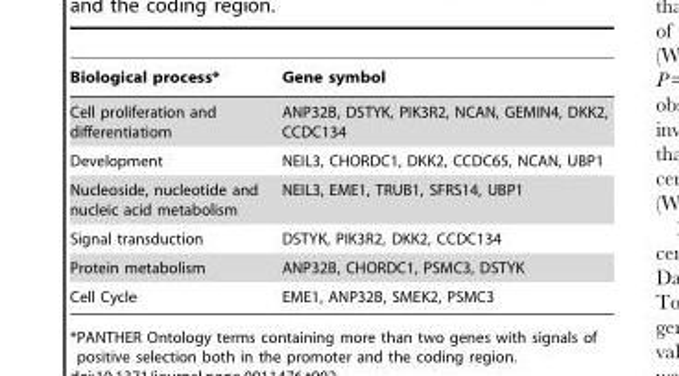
<table><thead><tr><td>Biological process*</td><td>Gene symbol</td></tr></thead><tbody><tr><td>Cell proliferation and differentiatiom</td><td>ANP32B, DSTYK, PIK3R2, NCAN, GEMIN4, DKK2, CCDC134</td></tr><tr><td>Development</td><td>NEIL3, CHORDC1, DKK2, CCDC65, NCAN, UBP1</td></tr><tr><td>Nucleoside, nucleotide and nucleic acid metabolism</td><td>NEIL3, EME1, TRUB1, SFRS14, UBP1</td></tr><tr><td>Signal transduction</td><td>DSTYK, PIK3R2, DKK2, CCDC134</td></tr><tr><td>Protein metabolism</td><td>ANP32B, CHORDC1, PSMC3, DSTYK</td></tr><tr><td>Cell Cycle</td><td>EME1, ANP32B, SMEK2, PSMC3</td></tr></tbody></table>